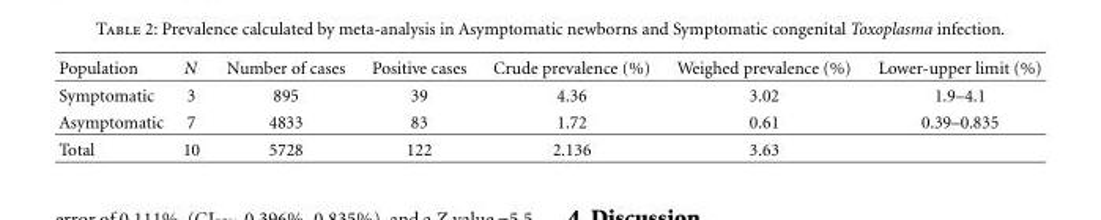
<table><thead><tr><td>Population</td><td>N</td><td>Number of cases</td><td>Positive cases</td><td>Crude prevalence (%)</td><td>Weighed prevalence (%)</td><td>Lower-upper limit (%)</td></tr></thead><tbody><tr><td>Symptomatic</td><td>3</td><td>895</td><td>39</td><td>4.36</td><td>3.02</td><td>1.9–4.1</td></tr><tr><td>Asymptomatic</td><td>7</td><td>4833</td><td>83</td><td>1.72</td><td>0.61</td><td>0.39–0.835</td></tr><tr><td>Total</td><td>10</td><td>5728</td><td>122</td><td>2.136</td><td>3.63</td><td></td></tr></tbody></table>